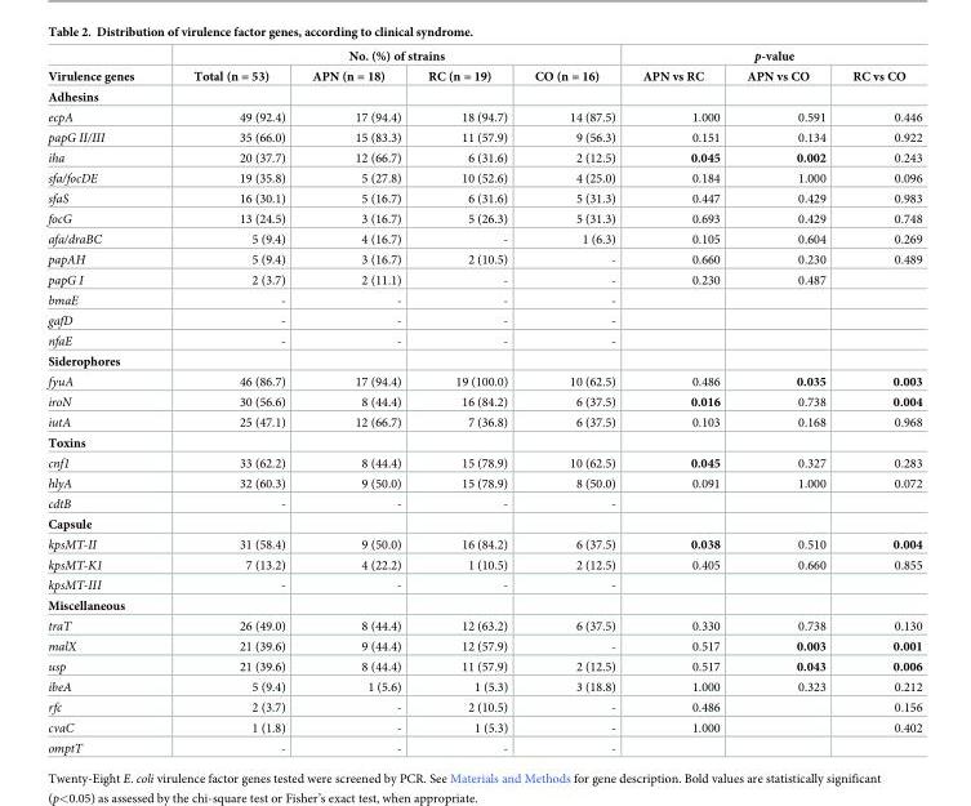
<table><thead><tr><td rowspan="2">Virulence genes</td><td colspan="4">No. (%) of strains</td><td colspan="3">p-value</td></tr><tr><td>Total (n = 53)</td><td>APN (n = 18)</td><td>RC (n = 19)</td><td>CO (n = 16)</td><td>APN vs RC</td><td>APN vs CO</td><td>RC vs CO</td></tr></thead><tbody><tr><td colspan="8">Adhesins</td></tr><tr><td>ecpA</td><td>49 (92.4)</td><td>17 (94.4)</td><td>18 (94.7)</td><td>14 (87.5)</td><td>1.000</td><td>0.591</td><td>0.446</td></tr><tr><td>papG II/III</td><td>35 (66.0)</td><td>15 (83.3)</td><td>11 (57.9)</td><td>9 (56.3)</td><td>0.151</td><td>0.134</td><td>0.922</td></tr><tr><td>iha</td><td>20 (37.7)</td><td>12 (66.7)</td><td>6 (31.6)</td><td>2 (12.5)</td><td>0.045</td><td>0.002</td><td>0.243</td></tr><tr><td>sfa/focDE</td><td>19 (35.8)</td><td>5 (27.8)</td><td>10 (52.6)</td><td>4 (25.0)</td><td>0.184</td><td>1.000</td><td>0.096</td></tr><tr><td>sfaS</td><td>16 (30.1)</td><td>5 (16.7)</td><td>6 (31.6)</td><td>5 (31.3)</td><td>0.447</td><td>0.429</td><td>0.983</td></tr><tr><td>focG</td><td>13 (24.5)</td><td>3 (16.7)</td><td>5 (26.3)</td><td>5 (31.3)</td><td>0.693</td><td>0.429</td><td>0.748</td></tr><tr><td>afa/draBC</td><td>5 (9.4)</td><td>4 (16.7)</td><td>-</td><td>1 (6.3)</td><td>0.105</td><td>0.604</td><td>0.269</td></tr><tr><td>papAH</td><td>5 (9.4)</td><td>3 (16.7)</td><td>2 (10.5)</td><td>-</td><td>0.660</td><td>0.230</td><td>0.489</td></tr><tr><td>papG I</td><td>2 (3.7)</td><td>2 (11.1)</td><td>-</td><td>-</td><td>0.230</td><td>0.487</td><td></td></tr><tr><td>bmaE</td><td>-</td><td>-</td><td>-</td><td>-</td><td></td><td></td><td></td></tr><tr><td>gafD</td><td>-</td><td>-</td><td>-</td><td>-</td><td></td><td></td><td></td></tr><tr><td>nfaE</td><td>-</td><td>-</td><td>-</td><td>-</td><td></td><td></td><td></td></tr><tr><td colspan="8">Siderophores</td></tr><tr><td>fyuA</td><td>46 (86.7)</td><td>17 (94.4)</td><td>19 (100.0)</td><td>10 (62.5)</td><td>0.486</td><td>0.035</td><td>0.003</td></tr><tr><td>iroN</td><td>30 (56.6)</td><td>8 (44.4)</td><td>16 (84.2)</td><td>6 (37.5)</td><td>0.016</td><td>0.738</td><td>0.004</td></tr><tr><td>iutA</td><td>25 (47.1)</td><td>12 (66.7)</td><td>7 (36.8)</td><td>6 (37.5)</td><td>0.103</td><td>0.168</td><td>0.968</td></tr><tr><td colspan="8">Toxins</td></tr><tr><td>cnf1</td><td>33 (62.2)</td><td>8 (44.4)</td><td>15 (78.9)</td><td>10 (62.5)</td><td>0.045</td><td>0.327</td><td>0.283</td></tr><tr><td>hlyA</td><td>32 (60.3)</td><td>9 (50.0)</td><td>15 (78.9)</td><td>8 (50.0)</td><td>0.091</td><td>1.000</td><td>0.072</td></tr><tr><td>cdtB</td><td>-</td><td>-</td><td>-</td><td>-</td><td></td><td></td><td></td></tr><tr><td colspan="8">Capsule</td></tr><tr><td>kpsMT-II</td><td>31 (58.4)</td><td>9 (50.0)</td><td>16 (84.2)</td><td>6 (37.5)</td><td>0.038</td><td>0.510</td><td>0.004</td></tr><tr><td>kpsMT-K1</td><td>7 (13.2)</td><td>4 (22.2)</td><td>1 (10.5)</td><td>2 (12.5)</td><td>0.405</td><td>0.660</td><td>0.855</td></tr><tr><td>kpsMT-III</td><td>-</td><td>-</td><td>-</td><td>-</td><td></td><td></td><td></td></tr><tr><td colspan="8">Miscellaneous</td></tr><tr><td>traT</td><td>26 (49.0)</td><td>8 (44.4)</td><td>12 (63.2)</td><td>6 (37.5)</td><td>0.330</td><td>0.738</td><td>0.130</td></tr><tr><td>malX</td><td>21 (39.6)</td><td>9 (44.4)</td><td>12 (57.9)</td><td>-</td><td>0.517</td><td>0.003</td><td>0.001</td></tr><tr><td>usp</td><td>21 (39.6)</td><td>8 (44.4)</td><td>11 (57.9)</td><td>2 (12.5)</td><td>0.517</td><td>0.043</td><td>0.006</td></tr><tr><td>ibeA</td><td>5 (9.4)</td><td>1 (5.6)</td><td>1 (5.3)</td><td>3 (18.8)</td><td>1.000</td><td>0.323</td><td>0.212</td></tr><tr><td>rfc</td><td>2 (3.7)</td><td>-</td><td>2 (10.5)</td><td>-</td><td>0.486</td><td></td><td>0.156</td></tr><tr><td>cvaC</td><td>1 (1.8)</td><td>-</td><td>1 (5.3)</td><td>-</td><td>1.000</td><td></td><td>0.402</td></tr><tr><td>omptT</td><td>-</td><td>-</td><td>-</td><td>-</td><td></td><td></td><td></td></tr></tbody></table>